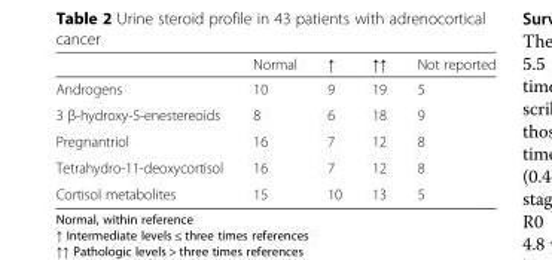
<table><thead><tr><td></td><td>Normal</td><td>↑</td><td>↑↑</td><td>Not reported</td></tr></thead><tbody><tr><td>Androgens</td><td>10</td><td>9</td><td>19</td><td>5</td></tr><tr><td>3 β-hydroxy-5-enestereoids</td><td>8</td><td>6</td><td>18</td><td>9</td></tr><tr><td>Pregnantriol</td><td>16</td><td>7</td><td>12</td><td>8</td></tr><tr><td>Tetrahydro-11-deoxycortisol</td><td>16</td><td>7</td><td>12</td><td>8</td></tr><tr><td>Cortisol metabolites</td><td>15</td><td>10</td><td>13</td><td>5</td></tr></tbody></table>